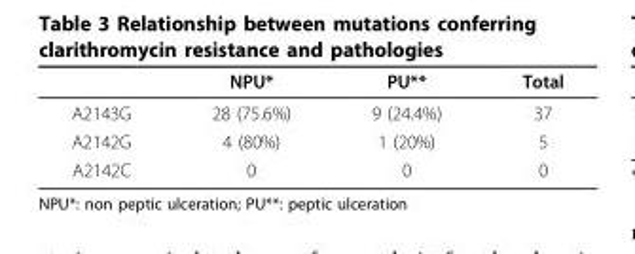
<table><thead><tr><td></td><td>NPU*</td><td>PU**</td><td>Total</td></tr></thead><tbody><tr><td>A2143G</td><td>28 (75.6%)</td><td>9 (24.4%)</td><td>37</td></tr><tr><td>A2142G</td><td>4 (80%)</td><td>1 (20%)</td><td>5</td></tr><tr><td>A2142C</td><td>0</td><td>0</td><td>0</td></tr></tbody></table>